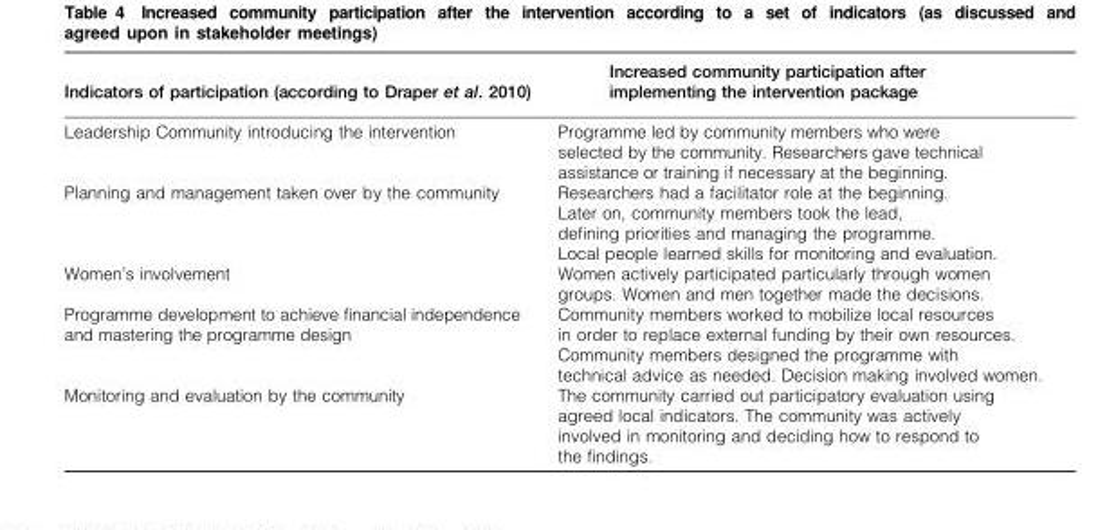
<table><thead><tr><td>Indicators of participation (according to Draper et al. 2010)</td><td>Increased community participation after implementing the intervention package</td></tr></thead><tbody><tr><td>Leadership Community introducing the intervention</td><td>Programme led by community members who were selected by the community. Researchers gave technical assistance or training if necessary at the beginning.</td></tr><tr><td>Planning and management taken over by the community</td><td>Researchers had a facilitator role at the beginning. Later on, community members took the lead, defining priorities and managing the programme. Local people learned skills for monitoring and evaluation.</td></tr><tr><td>Women’s involvement</td><td>Women actively participated particularly through women groups. Women and men together made the decisions.</td></tr><tr><td>Programme development to achieve financial independence and mastering the programme design</td><td>Community members worked to mobilize local resources in order to replace external funding by their own resources. Community members designed the programme with technical advice as needed. Decision making involved women.</td></tr><tr><td>Monitoring and evaluation by the community</td><td>The community carried out participatory evaluation using agreed local indicators. The community was actively involved in monitoring and deciding how to respond to the findings.</td></tr></tbody></table>